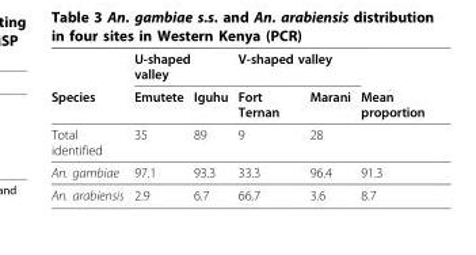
<table><thead><tr><td rowspan="2">Species</td><td colspan="2">U-shaped valley</td><td colspan="2">V-shaped valley</td><td rowspan="2">Mean proportion</td></tr><tr><td>Emutete</td><td>Iguhu</td><td>Fort Ternan</td><td>Marani</td></tr></thead><tbody><tr><td>Total identified</td><td>35</td><td>89</td><td>9</td><td>28</td><td></td></tr><tr><td>An. gambiae</td><td>97.1</td><td>93.3</td><td>33.3</td><td>96.4</td><td>91.3</td></tr><tr><td>An. arabiensis</td><td>2.9</td><td>6.7</td><td>66.7</td><td>3.6</td><td>8.7</td></tr></tbody></table>